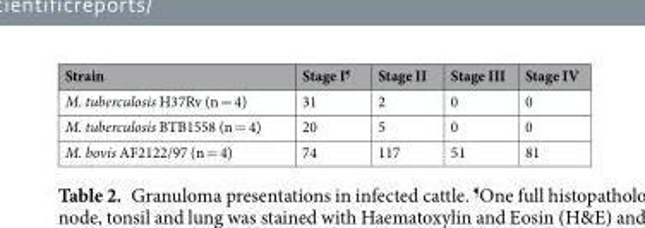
<table><thead><tr><td>Strain</td><td>Stage I<sup>¶</sup></td><td>Stage II</td><td>Stage III</td><td>Stage IV</td></tr></thead><tbody><tr><td>M. tuberculosis H37Rv (n = 4)</td><td>31</td><td>2</td><td>0</td><td>0</td></tr><tr><td>M. tuberculosis BTB1558 (n = 4)</td><td>20</td><td>5</td><td>0</td><td>0</td></tr><tr><td>M. bovis AF2122/97 (n = 4)</td><td>74</td><td>117</td><td>51</td><td>81</td></tr></tbody></table>